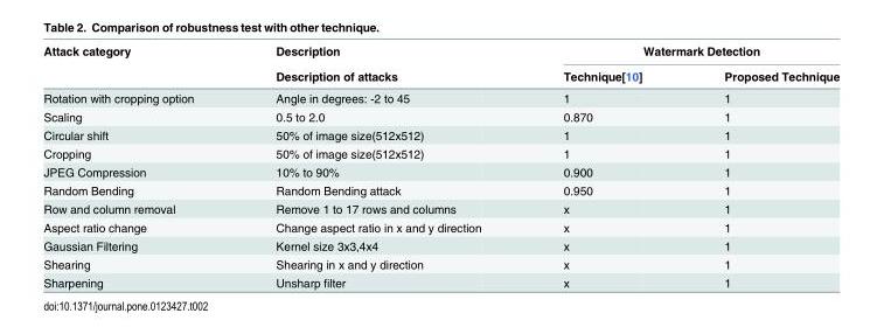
<table><thead><tr><td rowspan="2">Attack category</td><td rowspan="2">Description Description of attacks</td><td colspan="2">Watermark Detection</td></tr><tr><td>Technique[10]</td><td>Proposed Technique</td></tr></thead><tbody><tr><td>Rotation with cropping option</td><td>Angle in degrees: -2 to 45</td><td>1</td><td>1</td></tr><tr><td>Scaling</td><td>0.5 to 2.0</td><td>0.870</td><td>1</td></tr><tr><td>Circular shift</td><td>50% of image size(512x512)</td><td>1</td><td>1</td></tr><tr><td>Cropping</td><td>50% of image size(512x512)</td><td>1</td><td>1</td></tr><tr><td>JPEG Compression</td><td>10% to 90%</td><td>0.900</td><td>1</td></tr><tr><td>Random Bending</td><td>Random Bending attack</td><td>0.950</td><td>1</td></tr><tr><td>Row and column removal</td><td>Remove 1 to 17 rows and columns</td><td>x</td><td>1</td></tr><tr><td>Aspect ratio change</td><td>Change aspect ratio in x and y direction</td><td>x</td><td>1</td></tr><tr><td>Gaussian Filtering</td><td>Kernel size 3x3,4x4</td><td>x</td><td>1</td></tr><tr><td>Shearing</td><td>Shearing in x and y direction</td><td>x</td><td>1</td></tr><tr><td>Sharpening</td><td>Unsharp filter</td><td>x</td><td>1</td></tr></tbody></table>